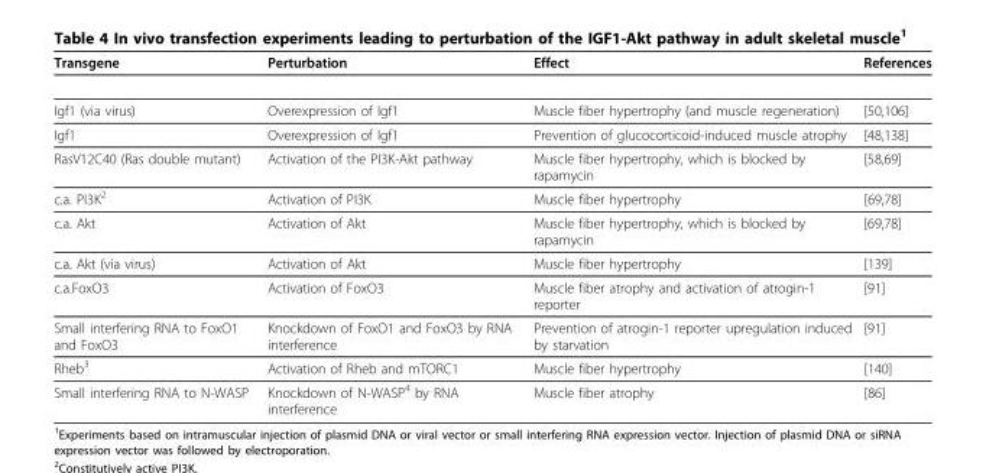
<table><thead><tr><td>Transgene</td><td>Perturbation</td><td>Effect</td><td>References</td></tr></thead><tbody><tr><td>Igf1 (via virus)</td><td>Overexpression of Igf1</td><td>Muscle fiber hypertrophy (and muscle regeneration)</td><td>[50,106]</td></tr><tr><td>Igf1</td><td>Overexpression of Igf1</td><td>Prevention of glucocorticoid-induced muscle atrophy</td><td>[48,138]</td></tr><tr><td>RasV12C40 (Ras double mutant)</td><td>Activation of the PI3K-Akt pathway</td><td>Muscle fiber hypertrophy, which is blocked by rapamycin</td><td>[58,69]</td></tr><tr><td>c.a. PI3K<sup>2</sup></td><td>Activation of PI3K</td><td>Muscle fiber hypertrophy</td><td>[69,78]</td></tr><tr><td>c.a. Akt</td><td>Activation of Akt</td><td>Muscle fiber hypertrophy, which is blocked by rapamycin</td><td>[69,78]</td></tr><tr><td>c.a. Akt (via virus)</td><td>Activation of Akt</td><td>Muscle fiber hypertrophy</td><td>[139]</td></tr><tr><td>c.a.FoxO3</td><td>Activation of FoxO3</td><td>Muscle fiber atrophy and activation of atrogin-1 reporter</td><td>[91]</td></tr><tr><td>Small interfering RNA to FoxO1 and FoxO3</td><td>Knockdown of FoxO1 and FoxO3 by RNA interference</td><td>Prevention of atrogin-1 reporter upregulation induced by starvation</td><td>[91]</td></tr><tr><td>Rheb<sup>3</sup></td><td>Activation of Rheb and mTORC1</td><td>Muscle fiber hypertrophy</td><td>[140]</td></tr><tr><td>Small interfering RNA to N-WASP</td><td>Knockdown of N-WASP<sup>4</sup> by RNA interference</td><td>Muscle fiber atrophy</td><td>[86]</td></tr></tbody></table>